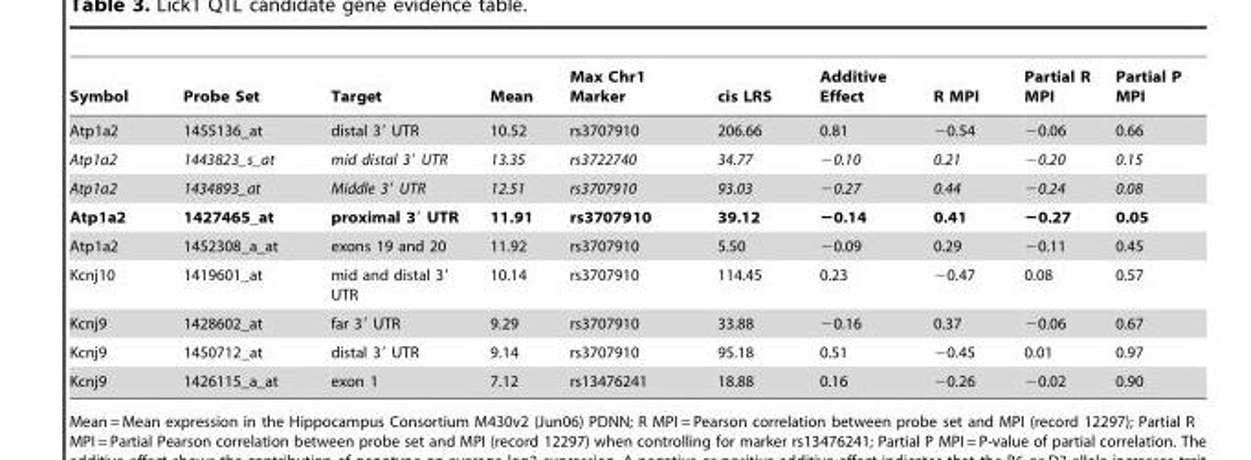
<table><thead><tr><td>Symbol</td><td>Probe Set</td><td>Target</td><td>Mean</td><td>Max Chr1 Marker</td><td>cis LRS</td><td>Additive Effect</td><td>R MPI</td><td>Partial R MPI</td><td>Partial P MPI</td></tr></thead><tbody><tr><td>Atp1a2</td><td>1455136_at</td><td>distal 3′ UTR</td><td>10.52</td><td>rs3707910</td><td>206.66</td><td>0.81</td><td>−0.54</td><td>−0.06</td><td>0.66</td></tr><tr><td>Atp1a2</td><td>1443823_s_at</td><td>mid distal 3′ UTR</td><td>13.35</td><td>rs3722740</td><td>34.77</td><td>−0.10</td><td>0.21</td><td>−0.20</td><td>0.15</td></tr><tr><td>Atp1a2</td><td>1434893_at</td><td>Middle 3′ UTR</td><td>12.51</td><td>rs3707910</td><td>93.03</td><td>−0.27</td><td>0.44</td><td>−0.24</td><td>0.08</td></tr><tr><td>Atp1a2</td><td>1427465_at</td><td>proximal 3′ UTR</td><td>11.91</td><td>rs3707910</td><td>39.12</td><td>−0.14</td><td>0.41</td><td>−0.27</td><td>0.05</td></tr><tr><td>Atp1a2</td><td>1452308_a_at</td><td>exons 19 and 20</td><td>11.92</td><td>rs3707910</td><td>5.50</td><td>−0.09</td><td>0.29</td><td>−0.11</td><td>0.45</td></tr><tr><td>Kcnj10</td><td>1419601_at</td><td>mid and distal 3′ UTR</td><td>10.14</td><td>rs3707910</td><td>114.45</td><td>0.23</td><td>−0.47</td><td>0.08</td><td>0.57</td></tr><tr><td>Kcnj9</td><td>1428602_at</td><td>far 3′ UTR</td><td>9.29</td><td>rs3707910</td><td>33.88</td><td>−0.16</td><td>0.37</td><td>−0.06</td><td>0.67</td></tr><tr><td>Kcnj9</td><td>1450712_at</td><td>distal 3′ UTR</td><td>9.14</td><td>rs3707910</td><td>95.18</td><td>0.51</td><td>−0.45</td><td>0.01</td><td>0.97</td></tr><tr><td>Kcnj9</td><td>1426115_a_at</td><td>exon 1</td><td>7.12</td><td>rs13476241</td><td>18.88</td><td>0.16</td><td>−0.26</td><td>−0.02</td><td>0.90</td></tr></tbody></table>